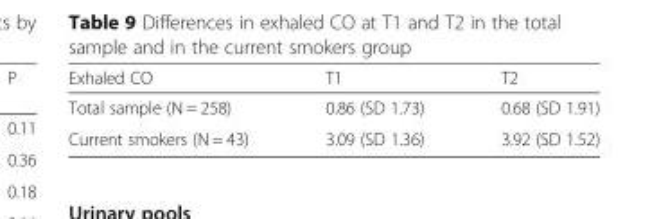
<table><thead><tr><td>Exhaled CO</td><td>T1</td><td>T2</td></tr></thead><tbody><tr><td>Total sample (N = 258)</td><td>0.86 (SD 1.73)</td><td>0.68 (SD 1.91)</td></tr><tr><td>Current smokers (N = 43)</td><td>3.09 (SD 1.36)</td><td>3.92 (SD 1.52)</td></tr></tbody></table>